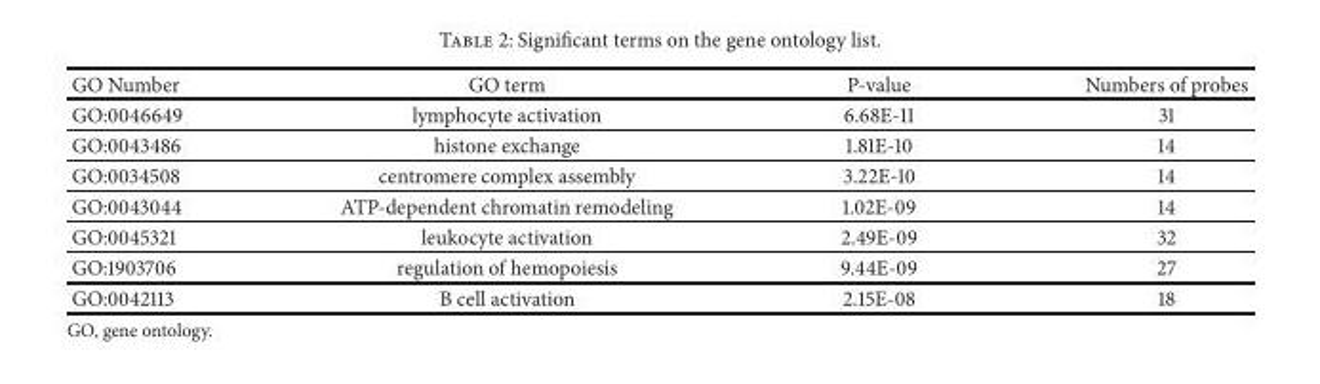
<table><thead><tr><td>GO Number</td><td>GO term</td><td>P-value</td><td>Numbers of probes</td></tr></thead><tbody><tr><td>GO:0046649</td><td>lymphocyte activation</td><td>6.68E-11</td><td>31</td></tr><tr><td>GO:0043486</td><td>histone exchange</td><td>1.81E-10</td><td>14</td></tr><tr><td>GO:0034508</td><td>centromere complex assembly</td><td>3.22E-10</td><td>14</td></tr><tr><td>GO:0043044</td><td>ATP-dependent chromatin remodeling</td><td>1.02E-09</td><td>14</td></tr><tr><td>GO:0045321</td><td>leukocyte activation</td><td>2.49E-09</td><td>32</td></tr><tr><td>GO:1903706</td><td>regulation of hemopoiesis</td><td>9.44E-09</td><td>27</td></tr><tr><td>GO:0042113</td><td>B cell activation</td><td>2.15E-08</td><td>18</td></tr></tbody></table>